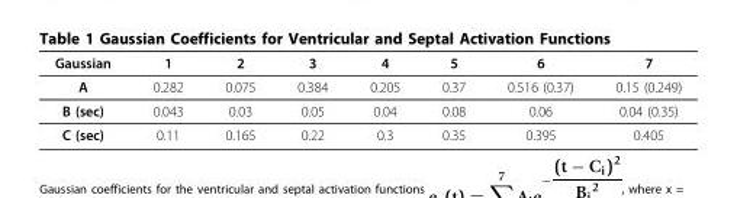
<table><thead><tr><td>Gaussian</td><td>1</td><td>2</td><td>3</td><td>4</td><td>5</td><td>6</td><td>7</td></tr></thead><tbody><tr><td>A</td><td>0.282</td><td>0.075</td><td>0.384</td><td>0.205</td><td>0.37</td><td>0.516 (0.37)</td><td>0.15 (0.249)</td></tr><tr><td>B (sec)</td><td>0.043</td><td>0.03</td><td>0.05</td><td>0.04</td><td>0.08</td><td>0.06</td><td>0.04 (0.35)</td></tr><tr><td>C (sec)</td><td>0.11</td><td>0.165</td><td>0.22</td><td>0.3</td><td>0.35</td><td>0.395</td><td>0.405</td></tr></tbody></table>